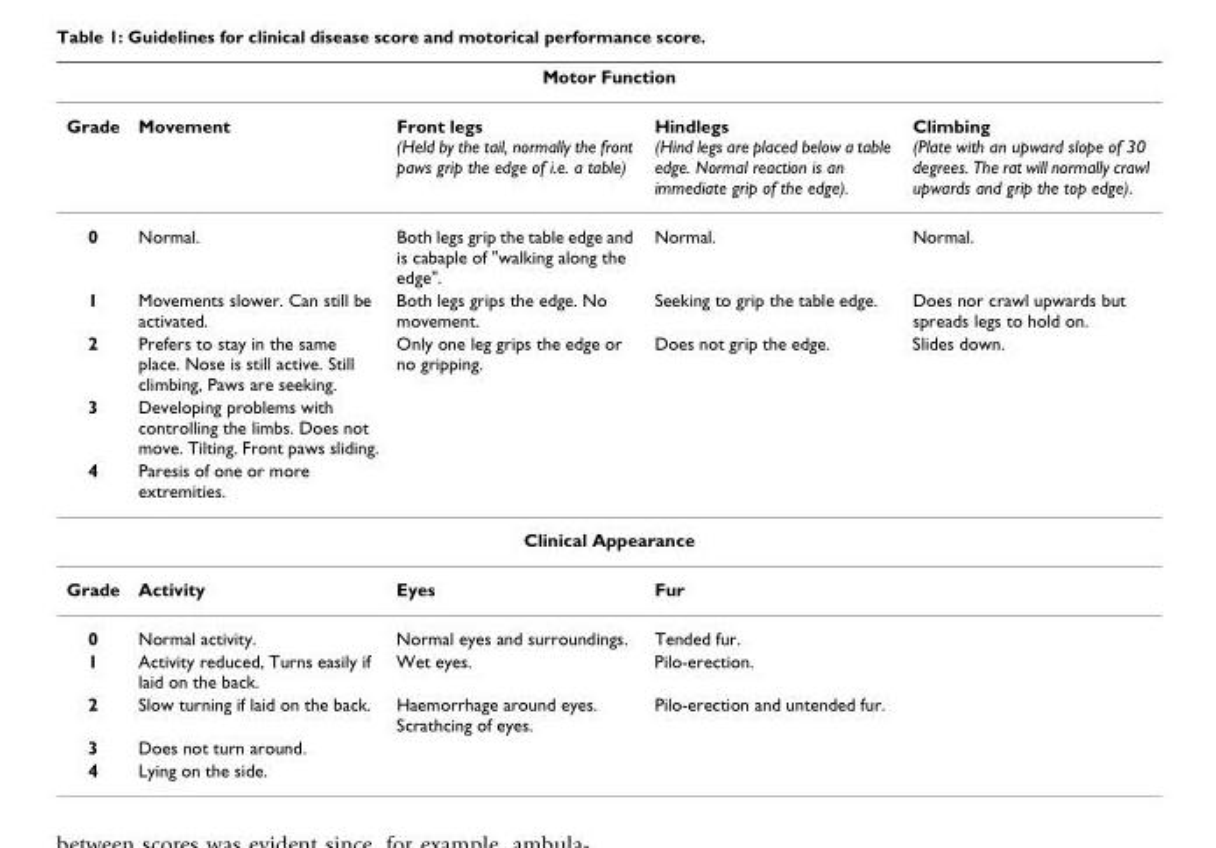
<table><thead><tr><td colspan="5">Motor Function</td></tr><tr><td>Grade</td><td>Movement</td><td>Front legs (Held by the tail, normally the front paws grip the edge of i.e. a table)</td><td>Hindlegs (Hind legs are placed below a table edge. Normal reaction is an immediate grip of the edge).</td><td>Climbing (Plate with an upward slope of 30 degrees. The rat will normally crawl upwards and grip the top edge).</td></tr></thead><tbody><tr><td>0</td><td>Normal.</td><td>Both legs grip the table edge and is cabaple of &quot;walking along the edge&quot;.</td><td>Normal.</td><td>Normal.</td></tr><tr><td>1</td><td>Movements slower. Can still be activated.</td><td>Both legs grips the edge. No movement.</td><td>Seeking to grip the table edge.</td><td>Does nor crawl upwards but spreads legs to hold on.</td></tr><tr><td>2</td><td>Prefers to stay in the same place. Nose is still active. Still climbing, Paws are seeking.</td><td>Only one leg grips the edge or no gripping.</td><td>Does not grip the edge.</td><td>Slides down.</td></tr><tr><td>3</td><td>Developing problems with controlling the limbs. Does not move. Tilting. Front paws sliding.</td><td></td><td></td><td></td></tr><tr><td>4</td><td>Paresis of one or more extremities.</td><td></td><td></td><td></td></tr><tr><td colspan="5">Clinical Appearance</td></tr><tr><td>Grade</td><td>Activity</td><td>Eyes</td><td>Fur</td><td></td></tr><tr><td>0</td><td>Normal activity.</td><td>Normal eyes and surroundings.</td><td>Tended fur.</td><td></td></tr><tr><td>1</td><td>Activity reduced, Turns easily if laid on the back.</td><td>Wet eyes.</td><td>Pilo-erection.</td><td></td></tr><tr><td>2</td><td>Slow turning if laid on the back.</td><td>Haemorrhage around eyes. Scrathcing of eyes.</td><td>Pilo-erection and untended fur.</td><td></td></tr><tr><td>3</td><td>Does not turn around.</td><td></td><td></td><td></td></tr><tr><td>4</td><td>Lying on the side.</td><td></td><td></td><td></td></tr></tbody></table>